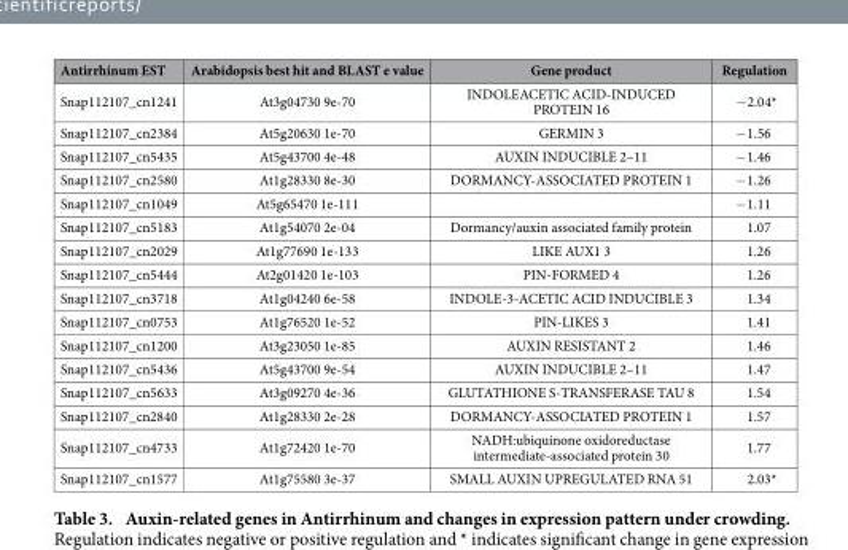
<table><thead><tr><td>Antirrhinum EST</td><td>Arabidopsis best hit and BLAST e value</td><td>Gene product</td><td>Regulation</td></tr></thead><tbody><tr><td>Snap112107_cn1241</td><td>At3g04730 9e-70</td><td>INDOLEACETIC ACID-INDUCED PROTEIN 16</td><td>− 2.04*</td></tr><tr><td>Snap112107_cn2384</td><td>At5g20630 1e-70</td><td>GERMIN 3</td><td>− 1.56</td></tr><tr><td>Snap112107_cn5435</td><td>At5g43700 4e-48</td><td>AUXIN INDUCIBLE 2–11</td><td>− 1.46</td></tr><tr><td>Snap112107_cn2580</td><td>At1g28330 8e-30</td><td>DORMANCY-ASSOCIATED PROTEIN 1</td><td>− 1.26</td></tr><tr><td>Snap112107_cn1049</td><td>At5g65470 1e-111</td><td></td><td>− 1.11</td></tr><tr><td>Snap112107_cn5183</td><td>At1g54070 2e-04</td><td>Dormancy/auxin associated family protein</td><td>1.07</td></tr><tr><td>Snap112107_cn2029</td><td>At1g77690 1e-133</td><td>LIKE AUX1 3</td><td>1.26</td></tr><tr><td>Snap112107_cn5444</td><td>At2g01420 1e-103</td><td>PIN-FORMED 4</td><td>1.26</td></tr><tr><td>Snap112107_cn3718</td><td>At1g04240 6e-58</td><td>INDOLE-3-ACETIC ACID INDUCIBLE 3</td><td>1.34</td></tr><tr><td>Snap112107_cn0753</td><td>At1g76520 1e-52</td><td>PIN-LIKES 3</td><td>1.41</td></tr><tr><td>Snap112107_cn1200</td><td>At3g23050 1e-85</td><td>AUXIN RESISTANT 2</td><td>1.46</td></tr><tr><td>Snap112107_cn5436</td><td>At5g43700 9e-54</td><td>AUXIN INDUCIBLE 2–11</td><td>1.47</td></tr><tr><td>Snap112107_cn5633</td><td>At3g09270 4e-36</td><td>GLUTATHIONE S-TRANSFERASE TAU 8</td><td>1.54</td></tr><tr><td>Snap112107_cn2840</td><td>At1g28330 2e-28</td><td>DORMANCY-ASSOCIATED PROTEIN 1</td><td>1.57</td></tr><tr><td>Snap112107_cn4733</td><td>At1g72420 1e-70</td><td>NADH:ubiquinone oxidoreductase intermediate-associated protein 30</td><td>1.77</td></tr><tr><td>Snap112107_cn1577</td><td>At1g75580 3e-37</td><td>SMALL AUXIN UPREGULATED RNA 51</td><td>2.03*</td></tr></tbody></table>